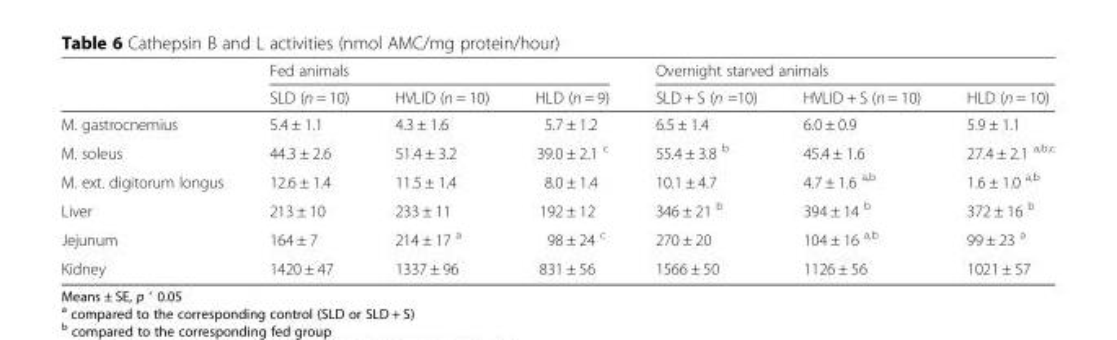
<table><thead><tr><td rowspan="2"></td><td colspan="3">Fed animals</td><td colspan="3">Overnight starved animals</td></tr><tr><td>SLD (n = 10)</td><td>HVLID (n = 10)</td><td>HLD (n = 9)</td><td>SLD + S (n =10)</td><td>HVLID + S (n = 10)</td><td>HLD (n = 10)</td></tr></thead><tbody><tr><td>M. gastrocnemius</td><td>5.4 ± 1.1</td><td>4.3 ± 1.6</td><td>5.7 ± 1.2</td><td>6.5 ± 1.4</td><td>6.0 ± 0.9</td><td>5.9 ± 1.1</td></tr><tr><td>M. soleus</td><td>44.3 ± 2.6</td><td>51.4 ± 3.2</td><td>39.0 ± 2.1 <sup>c</sup></td><td>55.4 ± 3.8 <sup>b</sup></td><td>45.4 ± 1.6</td><td>27.4 ± 2.1 <sup>a,b,c</sup></td></tr><tr><td>M. ext. digitorum longus</td><td>12.6 ± 1.4</td><td>11.5 ± 1.4</td><td>8.0 ± 1.4</td><td>10.1 ± 4.7</td><td>4.7 ± 1.6 <sup>a,b</sup></td><td>1.6 ± 1.0 <sup>a,b</sup></td></tr><tr><td>Liver</td><td>213 ± 10</td><td>233 ± 11</td><td>192 ± 12</td><td>346 ± 21 <sup>b</sup></td><td>394 ± 14 <sup>b</sup></td><td>372 ± 16 <sup>b</sup></td></tr><tr><td>Jejunum</td><td>164 ± 7</td><td>214 ± 17 <sup>a</sup></td><td>98 ± 24 <sup>c</sup></td><td>270 ± 20</td><td>104 ± 16 <sup>a,b</sup></td><td>99 ± 23 <sup>a</sup></td></tr><tr><td>Kidney</td><td>1420 ± 47</td><td>1337 ± 96</td><td>831 ± 56</td><td>1566 ± 50</td><td>1126 ± 56</td><td>1021 ± 57</td></tr></tbody></table>